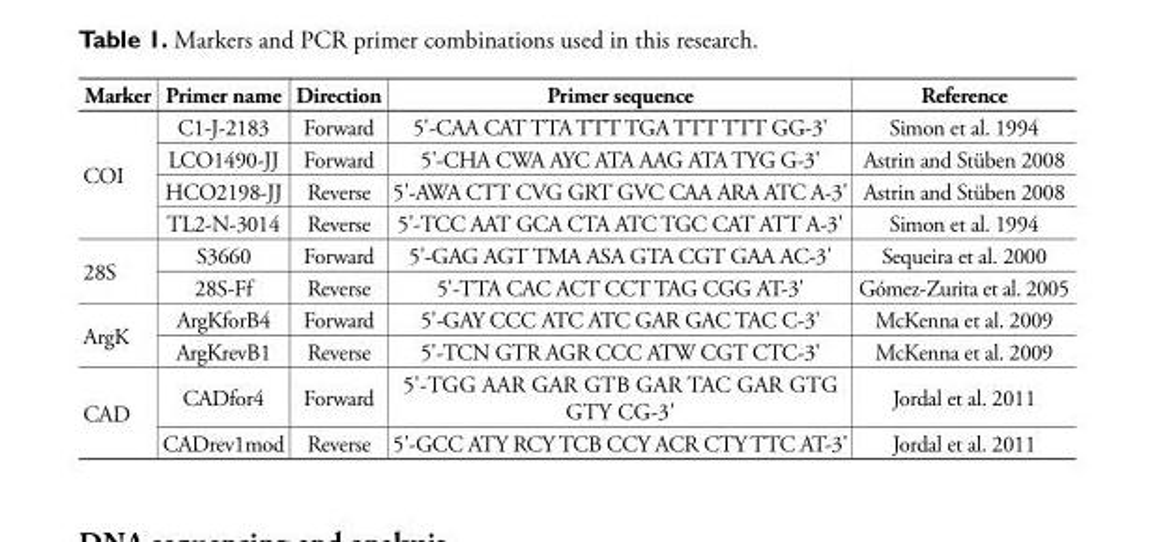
<table><tbody><tr><td>Marker</td><td>Primer name</td><td>Direction</td><td>Primer sequence</td><td>Reference</td></tr><tr><td rowspan="4">COI</td><td>C1-J-2183</td><td>Forward</td><td>5&#x27;-CAA CAT TTA TTT TGA TTT TTT GG-3&#x27;</td><td>Simon et al. 1994</td></tr><tr><td>LCO1490-JJ</td><td>Forward</td><td>5&#x27;-CHA CWA AYC ATA AAG ATA TYG G-3&#x27;</td><td>Astrin and Stüben 2008</td></tr><tr><td>HCO2198-JJ</td><td>Reverse</td><td>5&#x27;-AWA CTT CVG GRT GVC CAA ARA ATC A-3&#x27;</td><td>Astrin and Stüben 2008</td></tr><tr><td>TL2-N-3014</td><td>Reverse</td><td>5&#x27;-TCC AAT GCA CTA ATC TGC CAT ATT A-3&#x27;</td><td>Simon et al. 1994</td></tr><tr><td rowspan="2">28S</td><td>S3660</td><td>Forward</td><td>5&#x27;-GAG AGT TMA ASA GTA CGT GAA AC-3&#x27;</td><td>Sequeira et al. 2000</td></tr><tr><td>28S-Ff</td><td>Reverse</td><td>5&#x27;-TTA CAC ACT CCT TAG CGG AT-3&#x27;</td><td>Gómez-Zurita et al. 2005</td></tr><tr><td rowspan="2">ArgK</td><td>ArgKforB4</td><td>Forward</td><td>5&#x27;-GAY CCC ATC ATC GAR GAC TAC C-3&#x27;</td><td>McKenna et al. 2009</td></tr><tr><td>ArgKrevB1</td><td>Reverse</td><td>5&#x27;-TCN GTR AGR CCC ATW CGT CTC-3&#x27;</td><td>McKenna et al. 2009</td></tr><tr><td rowspan="2">CAD</td><td>CADfor4</td><td>Forward</td><td>5&#x27;-TGG AAR GAR GTB GAR TAC GAR GTG GTY CG-3&#x27;</td><td>Jordal et al. 2011</td></tr><tr><td>CADrev1mod</td><td>Reverse</td><td>5&#x27;-GCC ATY RCY TCB CCY ACR CTY TTC AT-3&#x27;</td><td>Jordal et al. 2011</td></tr></tbody></table>